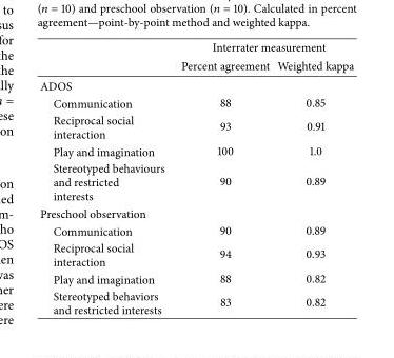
<table><thead><tr><td rowspan="2"></td><td colspan="2">Interrater measurement</td></tr><tr><td>Percent agreement</td><td>Weighted kappa</td></tr></thead><tbody><tr><td colspan="3">ADOS</td></tr><tr><td>Communication</td><td>88</td><td>0.85</td></tr><tr><td>Reciprocal social interaction</td><td>93</td><td>0.91</td></tr><tr><td>Play and imagination</td><td>100</td><td>1.0</td></tr><tr><td>Stereotyped behaviours and restricted interests</td><td>90</td><td>0.89</td></tr><tr><td colspan="3">Preschool observation</td></tr><tr><td>Communication</td><td>90</td><td>0.89</td></tr><tr><td>Reciprocal social interaction</td><td>94</td><td>0.93</td></tr><tr><td>Play and imagination</td><td>88</td><td>0.82</td></tr><tr><td>Stereotyped behaviors and restricted interests</td><td>83</td><td>0.82</td></tr></tbody></table>